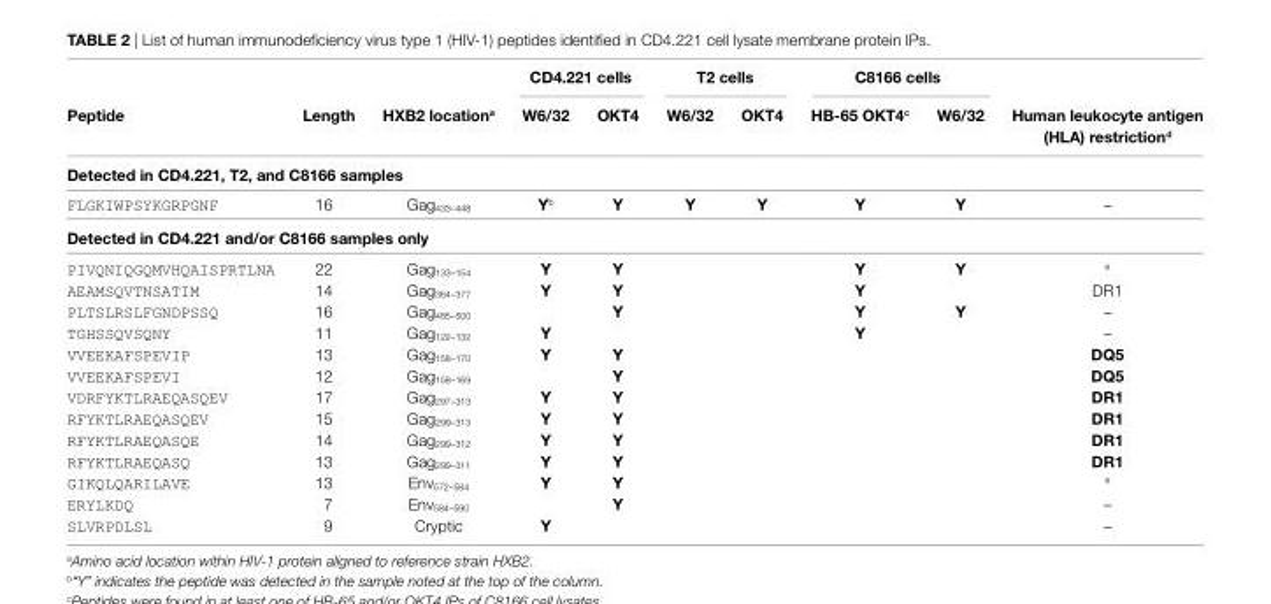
<table><thead><tr><td rowspan="2">Peptide</td><td rowspan="2">length</td><td rowspan="2">hXB2 location<sup>a</sup></td><td colspan="2">cD4.221 cells</td><td colspan="2">T2 cells</td><td colspan="2">c8166 cells</td><td rowspan="2">human leukocyte antigen (hla) restriction<sup>d</sup></td></tr><tr><td>W6/32</td><td>OKT4</td><td>W6/32</td><td>OKT4</td><td>hB-65 OKT4<sup>c</sup></td><td>W6/32</td></tr></thead><tbody><tr><td colspan="10">Detected in cD4.221, T2, and c8166 samples</td></tr><tr><td>FLGKIWPSYKGRPGNF</td><td>16</td><td>Gag<sub>433–448</sub></td><td>Y<sup>b</sup></td><td>Y</td><td>Y</td><td>Y</td><td>Y</td><td>Y</td><td>–</td></tr><tr><td colspan="10">Detected in cD4.221 and/or c8166 samples only</td></tr><tr><td>PIVQNIQGQMVHQAISPRTLNA</td><td>22</td><td>Gag<sub>133–154</sub></td><td>Y</td><td>Y</td><td></td><td></td><td>Y</td><td>Y</td><td><sup>e</sup></td></tr><tr><td>AEAMSQVTNSATIM</td><td>14</td><td>Gag<sub>364–377</sub></td><td>Y</td><td>Y</td><td></td><td></td><td>Y</td><td></td><td>DR1</td></tr><tr><td>PLTSLRSLFGNDPSSQ</td><td>16</td><td>Gag<sub>485–500</sub></td><td></td><td>Y</td><td></td><td></td><td>Y</td><td>Y</td><td>–</td></tr><tr><td>TGHSSQVSQNY</td><td>11</td><td>Gag<sub>122–132</sub></td><td>Y</td><td></td><td></td><td></td><td>Y</td><td></td><td>–</td></tr><tr><td>VVEEKAFSPEVIP</td><td>13</td><td>Gag<sub>158–170</sub></td><td>Y</td><td>Y</td><td></td><td></td><td></td><td></td><td>DQ5</td></tr><tr><td>VVEEKAFSPEVI</td><td>12</td><td>Gag<sub>158–169</sub></td><td></td><td>Y</td><td></td><td></td><td></td><td></td><td>DQ5</td></tr><tr><td>VDRFYKTLRAEQASQEV</td><td>17</td><td>Gag<sub>297–313</sub></td><td>Y</td><td>Y</td><td></td><td></td><td></td><td></td><td>Dr1</td></tr><tr><td>RFYKTLRAEQASQEV</td><td>15</td><td>Gag<sub>299–313</sub></td><td>Y</td><td>Y</td><td></td><td></td><td></td><td></td><td>Dr1</td></tr><tr><td>RFYKTLRAEQASQE</td><td>14</td><td>Gag<sub>299–312</sub></td><td>Y</td><td>Y</td><td></td><td></td><td></td><td></td><td>Dr1</td></tr><tr><td>RFYKTLRAEQASQ</td><td>13</td><td>Gag<sub>299–311</sub></td><td>Y</td><td>Y</td><td></td><td></td><td></td><td></td><td>Dr1</td></tr><tr><td>GIKQLQARILAVE</td><td>13</td><td>Env<sub>572–584</sub></td><td>Y</td><td>Y</td><td></td><td></td><td></td><td></td><td><sup>e</sup></td></tr><tr><td>ERYLKDQ</td><td>7</td><td>Env<sub>584–590</sub></td><td></td><td>Y</td><td></td><td></td><td></td><td></td><td>–</td></tr><tr><td>SLVRPDLSL</td><td>9</td><td>Cryptic</td><td>Y</td><td></td><td></td><td></td><td></td><td></td><td>–</td></tr></tbody></table>